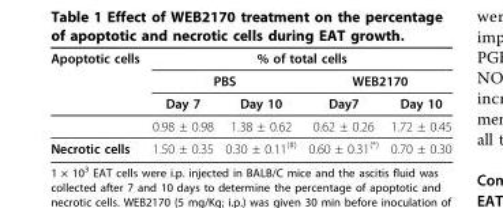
<table><thead><tr><td rowspan="3">Apoptotic cells</td><td colspan="4">% of total cells</td></tr><tr><td colspan="2">PBS</td><td colspan="2">WEB2170</td></tr><tr><td>Day 7</td><td>Day 10</td><td>Day7</td><td>Day 10</td></tr></thead><tbody><tr><td></td><td>0.98 ± 0.98</td><td>1.38 ± 0.62</td><td>0.62 ± 0.26</td><td>1.72 ± 0.45</td></tr><tr><td>Necrotic cells</td><td>1.50 ± 0.35</td><td>0.30 ± 0.11<sup>(#)</sup></td><td>0.60 ± 0.31<sup>(*)</sup></td><td>0.70 ± 0.30</td></tr></tbody></table>